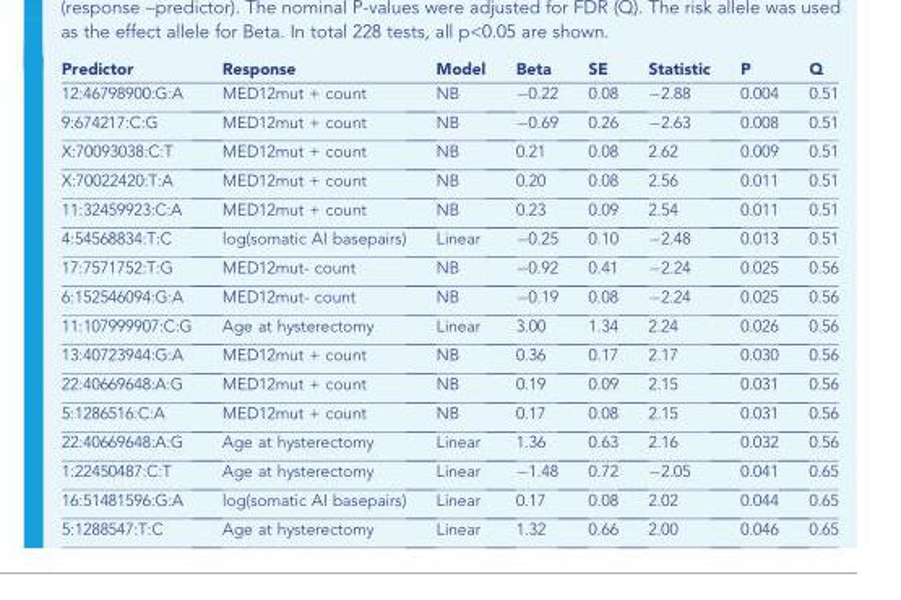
<table><thead><tr><td>Predictor</td><td>Response</td><td>Model</td><td>Beta</td><td>SE</td><td>Statistic</td><td>P</td><td>Q</td></tr></thead><tbody><tr><td>12:46798900:G:A</td><td>MED12mut + count</td><td>NB</td><td>−0.22</td><td>0.08</td><td>−2.88</td><td>0.004</td><td>0.51</td></tr><tr><td>9:674217:C:G</td><td>MED12mut + count</td><td>NB</td><td>−0.69</td><td>0.26</td><td>−2.63</td><td>0.008</td><td>0.51</td></tr><tr><td>X:70093038:C:T</td><td>MED12mut + count</td><td>NB</td><td>0.21</td><td>0.08</td><td>2.62</td><td>0.009</td><td>0.51</td></tr><tr><td>X:70022420:T:A</td><td>MED12mut + count</td><td>NB</td><td>0.20</td><td>0.08</td><td>2.56</td><td>0.011</td><td>0.51</td></tr><tr><td>11:32459923:C:A</td><td>MED12mut + count</td><td>NB</td><td>0.23</td><td>0.09</td><td>2.54</td><td>0.011</td><td>0.51</td></tr><tr><td>4:54568834:T:C</td><td>log(somatic AI basepairs)</td><td>Linear</td><td>−0.25</td><td>0.10</td><td>−2.48</td><td>0.013</td><td>0.51</td></tr><tr><td>17:7571752:T:G</td><td>MED12mut- count</td><td>NB</td><td>−0.92</td><td>0.41</td><td>−2.24</td><td>0.025</td><td>0.56</td></tr><tr><td>6:152546094:G:A</td><td>MED12mut- count</td><td>NB</td><td>−0.19</td><td>0.08</td><td>−2.24</td><td>0.025</td><td>0.56</td></tr><tr><td>11:107999907:C:G</td><td>Age at hysterectomy</td><td>Linear</td><td>3.00</td><td>1.34</td><td>2.24</td><td>0.026</td><td>0.56</td></tr><tr><td>13:40723944:G:A</td><td>MED12mut + count</td><td>NB</td><td>0.36</td><td>0.17</td><td>2.17</td><td>0.030</td><td>0.56</td></tr><tr><td>22:40669648:A:G</td><td>MED12mut + count</td><td>NB</td><td>0.19</td><td>0.09</td><td>2.15</td><td>0.031</td><td>0.56</td></tr><tr><td>5:1286516:C:A</td><td>MED12mut + count</td><td>NB</td><td>0.17</td><td>0.08</td><td>2.15</td><td>0.031</td><td>0.56</td></tr><tr><td>22:40669648:A:G</td><td>Age at hysterectomy</td><td>Linear</td><td>1.36</td><td>0.63</td><td>2.16</td><td>0.032</td><td>0.56</td></tr><tr><td>1:22450487:C:T</td><td>Age at hysterectomy</td><td>Linear</td><td>−1.48</td><td>0.72</td><td>−2.05</td><td>0.041</td><td>0.65</td></tr><tr><td>16:51481596:G:A</td><td>log(somatic AI basepairs)</td><td>Linear</td><td>0.17</td><td>0.08</td><td>2.02</td><td>0.044</td><td>0.65</td></tr><tr><td>5:1288547:T:C</td><td>Age at hysterectomy</td><td>Linear</td><td>1.32</td><td>0.66</td><td>2.00</td><td>0.046</td><td>0.65</td></tr></tbody></table>